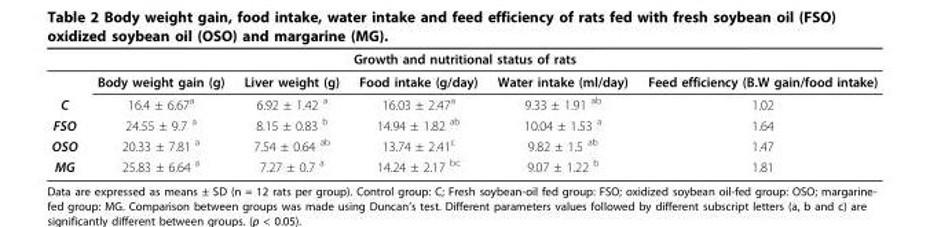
<table><thead><tr><td colspan="6">Growth and nutritional status of rats</td></tr><tr><td></td><td>Body weight gain (g)</td><td>Liver weight (g)</td><td>Food intake (g/day)</td><td>Water intake (ml/day)</td><td>Feed efficiency (B.W gain/food intake)</td></tr></thead><tbody><tr><td>C</td><td>16.4 ± 6.67<sup>a</sup></td><td>6.92 ± 1.42 <sup>a</sup></td><td>16.03 ± 2.47<sup>a</sup></td><td>9.33 ± 1.91 <sup>ab</sup></td><td>1.02</td></tr><tr><td>FSO</td><td>24.55 ± 9.7 <sup>a</sup></td><td>8.15 ± 0.83 <sup>b</sup></td><td>14.94 ± 1.82 <sup>ab</sup></td><td>10.04 ± 1.53 <sup>a</sup></td><td>1.64</td></tr><tr><td>OSO</td><td>20.33 ± 7.81 <sup>a</sup></td><td>7.54 ± 0.64 <sup>ab</sup></td><td>13.74 ± 2.41<sup>c</sup></td><td>9.82 ± 1.5 <sup>ab</sup></td><td>1.47</td></tr><tr><td>MG</td><td>25.83 ± 6.64 <sup>a</sup></td><td>7.27 ± 0.7 <sup>a</sup></td><td>14.24 ± 2.17 <sup>bc</sup></td><td>9.07 ± 1.22 <sup>b</sup></td><td>1.81</td></tr></tbody></table>